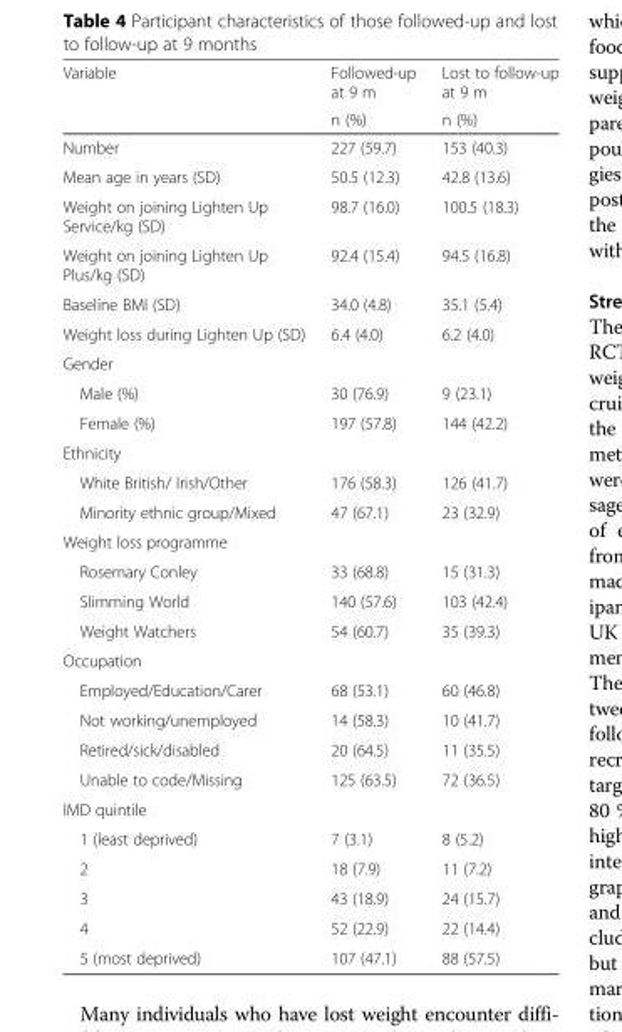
<table><thead><tr><td rowspan="2">Variable</td><td rowspan="2">Followed-up at 9 m n (%)</td><td rowspan="2">Lost to follow-up at 9 m n (%)</td></tr><tr></tr></thead><tbody><tr><td>Number</td><td>227 (59.7)</td><td>153 (40.3)</td></tr><tr><td>Mean age in years (SD)</td><td>50.5 (12.3)</td><td>42.8 (13.6)</td></tr><tr><td>Weight on joining Lighten Up Service/kg (SD)</td><td>98.7 (16.0)</td><td>100.5 (18.3)</td></tr><tr><td>Weight on joining Lighten Up Plus/kg (SD)</td><td>92.4 (15.4)</td><td>94.5 (16.8)</td></tr><tr><td>Baseline BMI (SD)</td><td>34.0 (4.8)</td><td>35.1 (5.4)</td></tr><tr><td>Weight loss during Lighten Up (SD)</td><td>6.4 (4.0)</td><td>6.2 (4.0)</td></tr><tr><td colspan="3">Gender</td></tr><tr><td>Male (%)</td><td>30 (76.9)</td><td>9 (23.1)</td></tr><tr><td>Female (%)</td><td>197 (57.8)</td><td>144 (42.2)</td></tr><tr><td colspan="3">Ethnicity</td></tr><tr><td>White British/ Irish/Other</td><td>176 (58.3)</td><td>126 (41.7)</td></tr><tr><td>Minority ethnic group/Mixed</td><td>47 (67.1)</td><td>23 (32.9)</td></tr><tr><td colspan="3">Weight loss programme</td></tr><tr><td>Rosemary Conley</td><td>33 (68.8)</td><td>15 (31.3)</td></tr><tr><td>Slimming World</td><td>140 (57.6)</td><td>103 (42.4)</td></tr><tr><td>Weight Watchers</td><td>54 (60.7)</td><td>35 (39.3)</td></tr><tr><td colspan="3">Occupation</td></tr><tr><td>Employed/Education/Carer</td><td>68 (53.1)</td><td>60 (46.8)</td></tr><tr><td>Not working/unemployed</td><td>14 (58.3)</td><td>10 (41.7)</td></tr><tr><td>Retired/sick/disabled</td><td>20 (64.5)</td><td>11 (35.5)</td></tr><tr><td>Unable to code/Missing</td><td>125 (63.5)</td><td>72 (36.5)</td></tr><tr><td colspan="3">IMD quintile</td></tr><tr><td>1 (least deprived)</td><td>7 (3.1)</td><td>8 (5.2)</td></tr><tr><td>2</td><td>18 (7.9)</td><td>11 (7.2)</td></tr><tr><td>3</td><td>43 (18.9)</td><td>24 (15.7)</td></tr><tr><td>4</td><td>52 (22.9)</td><td>22 (14.4)</td></tr><tr><td>5 (most deprived)</td><td>107 (47.1)</td><td>88 (57.5)</td></tr></tbody></table>